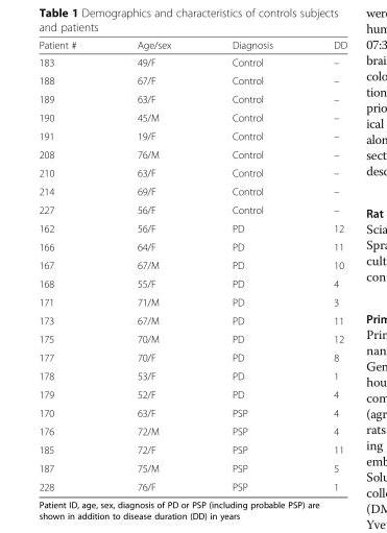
<table><thead><tr><td>Patient #</td><td>Age/sex</td><td>Diagnosis</td><td>DD</td></tr></thead><tbody><tr><td>183</td><td>49/F</td><td>Control</td><td>–</td></tr><tr><td>188</td><td>67/F</td><td>Control</td><td>–</td></tr><tr><td>189</td><td>63/F</td><td>Control</td><td>–</td></tr><tr><td>190</td><td>45/M</td><td>Control</td><td>–</td></tr><tr><td>191</td><td>19/F</td><td>Control</td><td>–</td></tr><tr><td>208</td><td>76/M</td><td>Control</td><td>–</td></tr><tr><td>210</td><td>63/F</td><td>Control</td><td>–</td></tr><tr><td>214</td><td>69/F</td><td>Control</td><td>–</td></tr><tr><td>227</td><td>56/F</td><td>Control</td><td>–</td></tr><tr><td>162</td><td>56/F</td><td>PD</td><td>12</td></tr><tr><td>166</td><td>64/F</td><td>PD</td><td>11</td></tr><tr><td>167</td><td>67/M</td><td>PD</td><td>10</td></tr><tr><td>168</td><td>55/F</td><td>PD</td><td>4</td></tr><tr><td>171</td><td>71/M</td><td>PD</td><td>3</td></tr><tr><td>173</td><td>67/M</td><td>PD</td><td>11</td></tr><tr><td>175</td><td>70/M</td><td>PD</td><td>12</td></tr><tr><td>177</td><td>70/F</td><td>PD</td><td>8</td></tr><tr><td>178</td><td>53/F</td><td>PD</td><td>1</td></tr><tr><td>179</td><td>52/F</td><td>PD</td><td>4</td></tr><tr><td>170</td><td>63/F</td><td>PSP</td><td>4</td></tr><tr><td>176</td><td>72/M</td><td>PSP</td><td>4</td></tr><tr><td>185</td><td>72/F</td><td>PSP</td><td>11</td></tr><tr><td>187</td><td>75/M</td><td>PSP</td><td>5</td></tr><tr><td>228</td><td>76/F</td><td>PSP</td><td>1</td></tr></tbody></table>